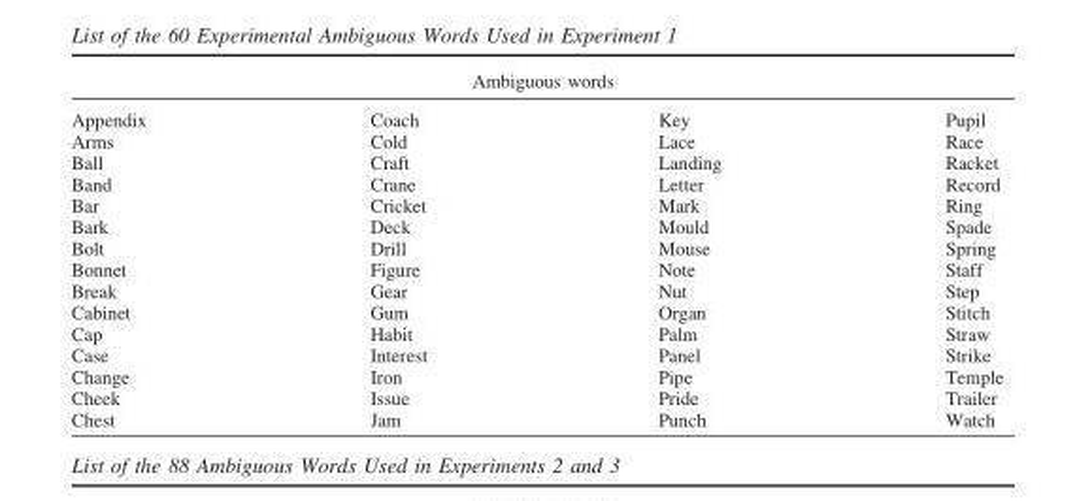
<table><thead><tr><td colspan="4">Ambiguous words</td></tr><tr><td>Appendix</td><td>Coach</td><td>Key</td><td>Pupil</td></tr></thead><tbody><tr><td>Arms</td><td>Cold</td><td>Lace</td><td>Race</td></tr><tr><td>Ball</td><td>Craft</td><td>Landing</td><td>Racket</td></tr><tr><td>Band</td><td>Crane</td><td>Letter</td><td>Record</td></tr><tr><td>Bar</td><td>Cricket</td><td>Mark</td><td>Ring</td></tr><tr><td>Bark</td><td>Deck</td><td>Mould</td><td>Spade</td></tr><tr><td>Bolt</td><td>Drill</td><td>Mouse</td><td>Spring</td></tr><tr><td>Bonnet</td><td>Figure</td><td>Note</td><td>Staff</td></tr><tr><td>Break</td><td>Gear</td><td>Nut</td><td>Step</td></tr><tr><td>Cabinet</td><td>Gum</td><td>Organ</td><td>Stitch</td></tr><tr><td>Cap</td><td>Habit</td><td>Palm</td><td>Straw</td></tr><tr><td>Case</td><td>Interest</td><td>Panel</td><td>Strike</td></tr><tr><td>Change</td><td>Iron</td><td>Pipe</td><td>Temple</td></tr><tr><td>Cheek</td><td>Issue</td><td>Pride</td><td>Trailer</td></tr><tr><td>Chest</td><td>Jam</td><td>Punch</td><td>Watch</td></tr></tbody></table>